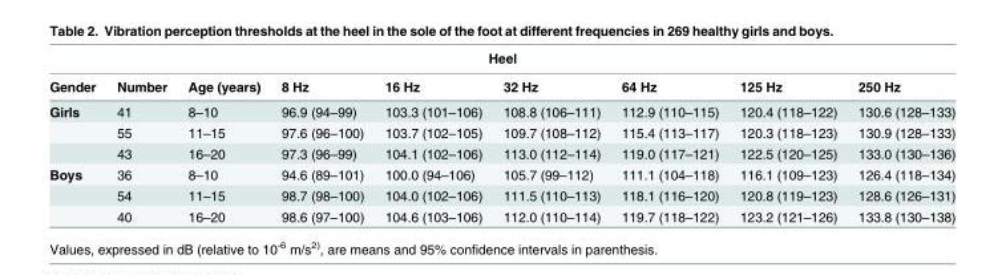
<table><thead><tr><td colspan="9">Heel</td></tr><tr><td>Gender</td><td>Number</td><td>Age (years)</td><td>8 Hz</td><td>16 Hz</td><td>32 Hz</td><td>64 Hz</td><td>125 Hz</td><td>250 Hz</td></tr></thead><tbody><tr><td rowspan="3">Girls</td><td>41</td><td>8–10</td><td>96.9 (94–99)</td><td>103.3 (101–106)</td><td>108.8 (106–111)</td><td>112.9 (110–115)</td><td>120.4 (118–122)</td><td>130.6 (128–133)</td></tr><tr><td>55</td><td>11–15</td><td>97.6 (96–100)</td><td>103.7 (102–105)</td><td>109.7 (108–112)</td><td>115.4 (113–117)</td><td>120.3 (118–123)</td><td>130.9 (128–133)</td></tr><tr><td>43</td><td>16–20</td><td>97.3 (96–99)</td><td>104.1 (102–106)</td><td>113.0 (112–114)</td><td>119.0 (117–121)</td><td>122.5 (120–125)</td><td>133.0 (130–136)</td></tr><tr><td rowspan="3">Boys</td><td>36</td><td>8–10</td><td>94.6 (89–101)</td><td>100.0 (94–106)</td><td>105.7 (99–112)</td><td>111.1 (104–118)</td><td>116.1 (109–123)</td><td>126.4 (118–134)</td></tr><tr><td>54</td><td>11–15</td><td>98.7 (98–100)</td><td>104.0 (102–106)</td><td>111.5 (110–113)</td><td>118.1 (116–120)</td><td>120.8 (119–123)</td><td>128.6 (126–131)</td></tr><tr><td>40</td><td>16–20</td><td>98.6 (97–100)</td><td>104.6 (103–106)</td><td>112.0 (110–114)</td><td>119.7 (118–122)</td><td>123.2 (121–126)</td><td>133.8 (130–138)</td></tr></tbody></table>